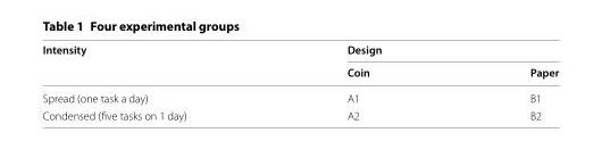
<table><thead><tr><td rowspan="2">Intensity</td><td colspan="2">Design</td></tr><tr><td>Coin</td><td>Paper</td></tr></thead><tbody><tr><td>Spread (one task a day)</td><td>A1</td><td>B1</td></tr><tr><td>Condensed (five tasks on 1 day)</td><td>A2</td><td>B2</td></tr></tbody></table>